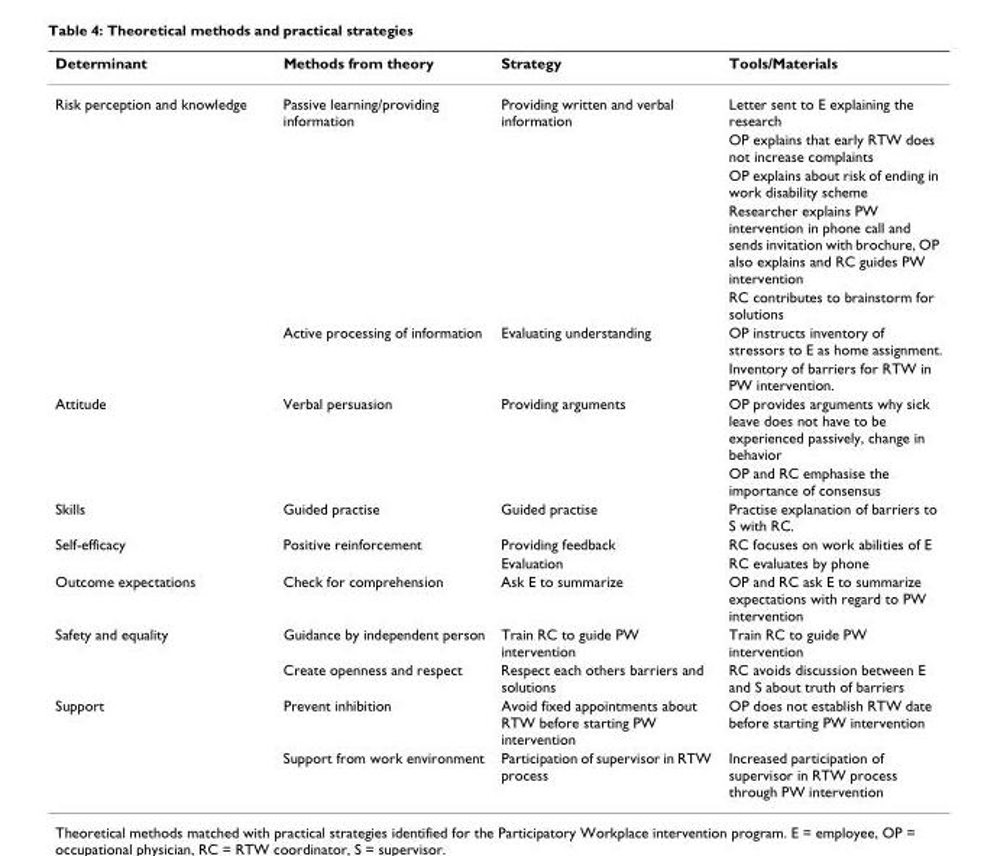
<table><thead><tr><td>Determinant</td><td>Methods from theory</td><td>Strategy</td><td>Tools/Materials</td></tr></thead><tbody><tr><td rowspan="7">Risk perception and knowledge</td><td>Passive learning/providing information</td><td>Providing written and verbal information</td><td>Letter sent to E explaining the research</td></tr><tr><td></td><td></td><td>OP explains that early RTW does not increase complaints</td></tr><tr><td></td><td></td><td>OP explains about risk of ending in work disability scheme</td></tr><tr><td></td><td></td><td>Researcher explains PW intervention in phone call and sends invitation with brochure, OP also explains and RC guides PW intervention</td></tr><tr><td></td><td></td><td>RC contributes to brainstorm for solutions</td></tr><tr><td>Active processing of information</td><td>Evaluating understanding</td><td>OP instructs inventory of stressors to E as home assignment.</td></tr><tr><td></td><td></td><td>Inventory of barriers for RTW in PW intervention.</td></tr><tr><td rowspan="2">Attitude</td><td>Verbal persuasion</td><td>Providing arguments</td><td>OP provides arguments why sick leave does not have to be experienced passively, change in behavior</td></tr><tr><td></td><td></td><td>OP and RC emphasise the importance of consensus</td></tr><tr><td>Skills</td><td>Guided practise</td><td>Guided practise</td><td>Practise explanation of barriers to S with RC.</td></tr><tr><td rowspan="2">Self-efficacy</td><td>Positive reinforcement</td><td>Providing feedback</td><td>RC focuses on work abilities of E</td></tr><tr><td></td><td>Evaluation</td><td>RC evaluates by phone</td></tr><tr><td>Outcome expectations</td><td>Check for comprehension</td><td>Ask E to summarize</td><td>OP and RC ask E to summarize expectations with regard to PW intervention</td></tr><tr><td rowspan="2">Safety and equality</td><td>Guidance by independent person</td><td>Train RC to guide PW intervention</td><td>Train RC to guide PW intervention</td></tr><tr><td>Create openness and respect</td><td>Respect each others barriers and solutions</td><td>RC avoids discussion between E and S about truth of barriers</td></tr><tr><td rowspan="2">Support</td><td>Prevent inhibition</td><td>Avoid fixed appointments about RTW before starting PW intervention</td><td>OP does not establish RTW date before starting PW intervention</td></tr><tr><td>Support from work environment</td><td>Participation of supervisor in RTW process</td><td>Increased participation of supervisor in RTW process through PW intervention</td></tr></tbody></table>